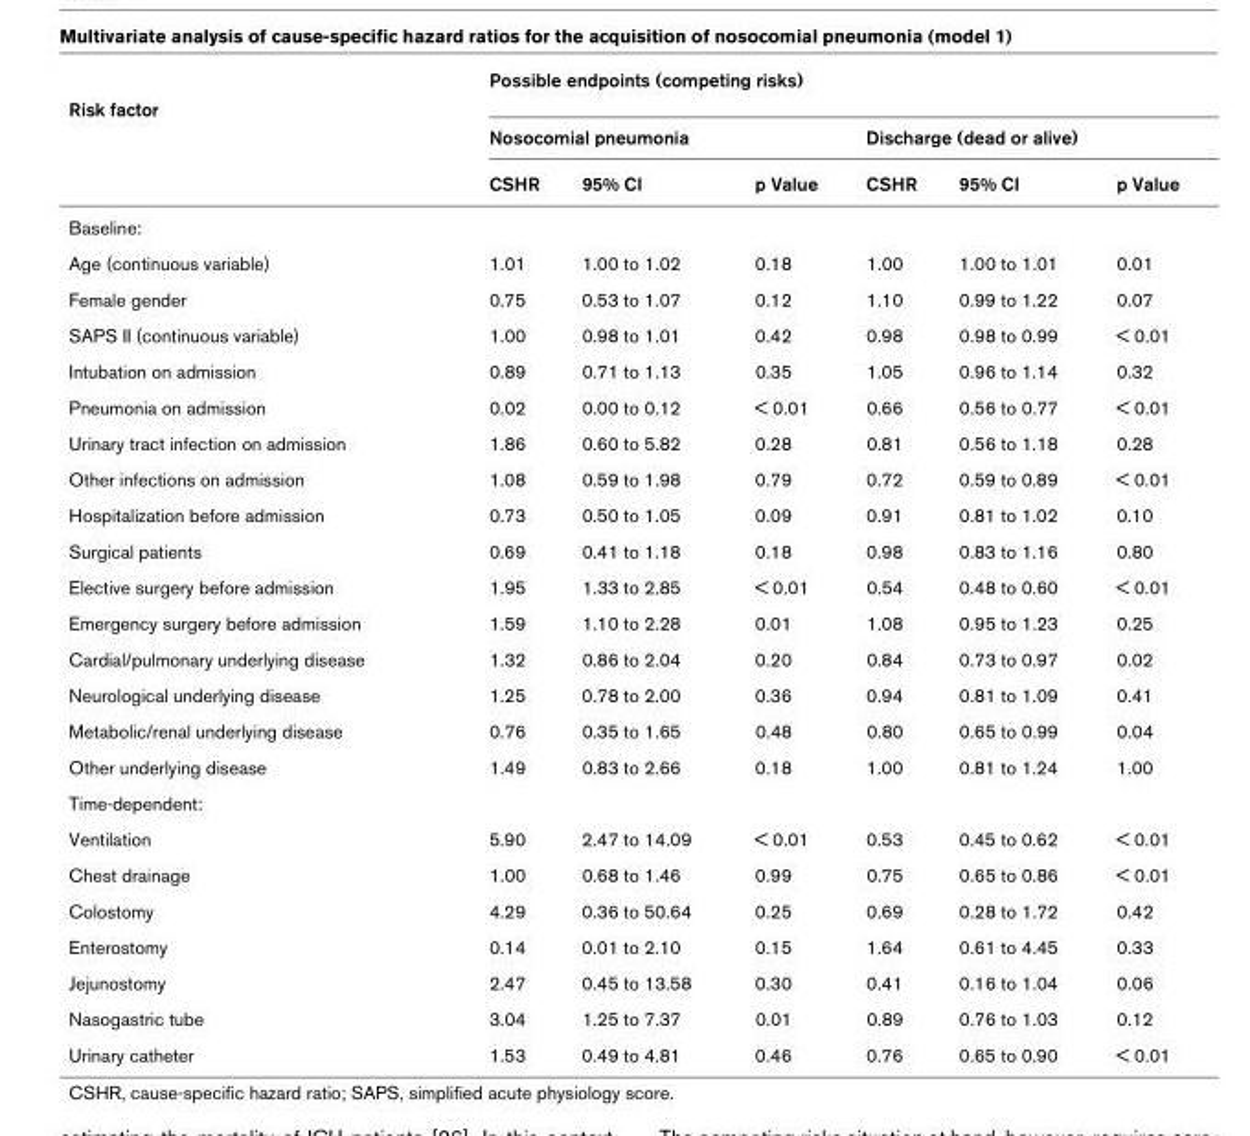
<table><thead><tr><td rowspan="4">Risk factor</td><td colspan="6">Possible endpoints (competing risks)</td></tr><tr><td></td><td></td><td></td><td></td><td></td><td></td></tr><tr><td colspan="3">Nosocomial pneumonia</td><td colspan="3">Discharge (dead or alive)</td></tr><tr><td>CSHR</td><td>95% CI</td><td>p Value</td><td>CSHR</td><td>95% CI</td><td>p Value</td></tr></thead><tbody><tr><td colspan="7">Baseline:</td></tr><tr><td>Age (continuous variable)</td><td>1.01</td><td>1.00 to 1.02</td><td>0.18</td><td>1.00</td><td>1.00 to 1.01</td><td>0.01</td></tr><tr><td>Female gender</td><td>0.75</td><td>0.53 to 1.07</td><td>0.12</td><td>1.10</td><td>0.99 to 1.22</td><td>0.07</td></tr><tr><td>SAPS II (continuous variable)</td><td>1.00</td><td>0.98 to 1.01</td><td>0.42</td><td>0.98</td><td>0.98 to 0.99</td><td>&lt; 0.01</td></tr><tr><td>Intubation on admission</td><td>0.89</td><td>0.71 to 1.13</td><td>0.35</td><td>1.05</td><td>0.96 to 1.14</td><td>0.32</td></tr><tr><td>Pneumonia on admission</td><td>0.02</td><td>0.00 to 0.12</td><td>&lt; 0.01</td><td>0.66</td><td>0.56 to 0.77</td><td>&lt; 0.01</td></tr><tr><td>Urinary tract infection on admission</td><td>1.86</td><td>0.60 to 5.82</td><td>0.28</td><td>0.81</td><td>0.56 to 1.18</td><td>0.28</td></tr><tr><td>Other infections on admission</td><td>1.08</td><td>0.59 to 1.98</td><td>0.79</td><td>0.72</td><td>0.59 to 0.89</td><td>&lt; 0.01</td></tr><tr><td>Hospitalization before admission</td><td>0.73</td><td>0.50 to 1.05</td><td>0.09</td><td>0.91</td><td>0.81 to 1.02</td><td>0.10</td></tr><tr><td>Surgical patients</td><td>0.69</td><td>0.41 to 1.18</td><td>0.18</td><td>0.98</td><td>0.83 to 1.16</td><td>0.80</td></tr><tr><td>Elective surgery before admission</td><td>1.95</td><td>1.33 to 2.85</td><td>&lt; 0.01</td><td>0.54</td><td>0.48 to 0.60</td><td>&lt; 0.01</td></tr><tr><td>Emergency surgery before admission</td><td>1.59</td><td>1.10 to 2.28</td><td>0.01</td><td>1.08</td><td>0.95 to 1.23</td><td>0.25</td></tr><tr><td>Cardial/pulmonary underlying disease</td><td>1.32</td><td>0.86 to 2.04</td><td>0.20</td><td>0.84</td><td>0.73 to 0.97</td><td>0.02</td></tr><tr><td>Neurological underlying disease</td><td>1.25</td><td>0.78 to 2.00</td><td>0.36</td><td>0.94</td><td>0.81 to 1.09</td><td>0.41</td></tr><tr><td>Metabolic/renal underlying disease</td><td>0.76</td><td>0.35 to 1.65</td><td>0.48</td><td>0.80</td><td>0.65 to 0.99</td><td>0.04</td></tr><tr><td>Other underlying disease</td><td>1.49</td><td>0.83 to 2.66</td><td>0.18</td><td>1.00</td><td>0.81 to 1.24</td><td>1.00</td></tr><tr><td colspan="7">Time-dependent:</td></tr><tr><td>Ventilation</td><td>5.90</td><td>2.47 to 14.09</td><td>&lt; 0.01</td><td>0.53</td><td>0.45 to 0.62</td><td>&lt; 0.01</td></tr><tr><td>Chest drainage</td><td>1.00</td><td>0.68 to 1.46</td><td>0.99</td><td>0.75</td><td>0.65 to 0.86</td><td>&lt; 0.01</td></tr><tr><td>Colostomy</td><td>4.29</td><td>0.36 to 50.64</td><td>0.25</td><td>0.69</td><td>0.28 to 1.72</td><td>0.42</td></tr><tr><td>Enterostomy</td><td>0.14</td><td>0.01 to 2.10</td><td>0.15</td><td>1.64</td><td>0.61 to 4.45</td><td>0.33</td></tr><tr><td>Jejunostomy</td><td>2.47</td><td>0.45 to 13.58</td><td>0.30</td><td>0.41</td><td>0.16 to 1.04</td><td>0.06</td></tr><tr><td>Nasogastric tube</td><td>3.04</td><td>1.25 to 7.37</td><td>0.01</td><td>0.89</td><td>0.76 to 1.03</td><td>0.12</td></tr><tr><td>Urinary catheter</td><td>1.53</td><td>0.49 to 4.81</td><td>0.46</td><td>0.76</td><td>0.65 to 0.90</td><td>&lt; 0.01</td></tr></tbody></table>